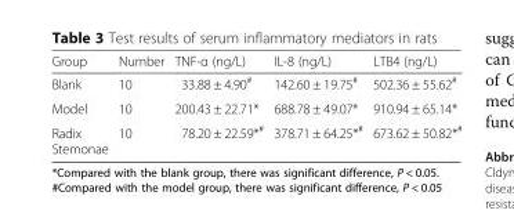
<table><thead><tr><td>Group</td><td>Number</td><td>TNF-α (ng/L)</td><td>IL-8 (ng/L)</td><td>LTB4 (ng/L)</td></tr></thead><tbody><tr><td>Blank</td><td>10</td><td>33.88 ± 4.90<sup>#</sup></td><td>142.60 ± 19.75<sup>#</sup></td><td>502.36 ± 55.62<sup>#</sup></td></tr><tr><td>Model</td><td>10</td><td>200.43 ± 22.71*</td><td>688.78 ± 49.07*</td><td>910.94 ± 65.14*</td></tr><tr><td>Radix Stemonae</td><td>10</td><td>78.20 ± 22.59*<sup>#</sup></td><td>378.71 ± 64.25*<sup>#</sup></td><td>673.62 ± 50.82*<sup>#</sup></td></tr></tbody></table>